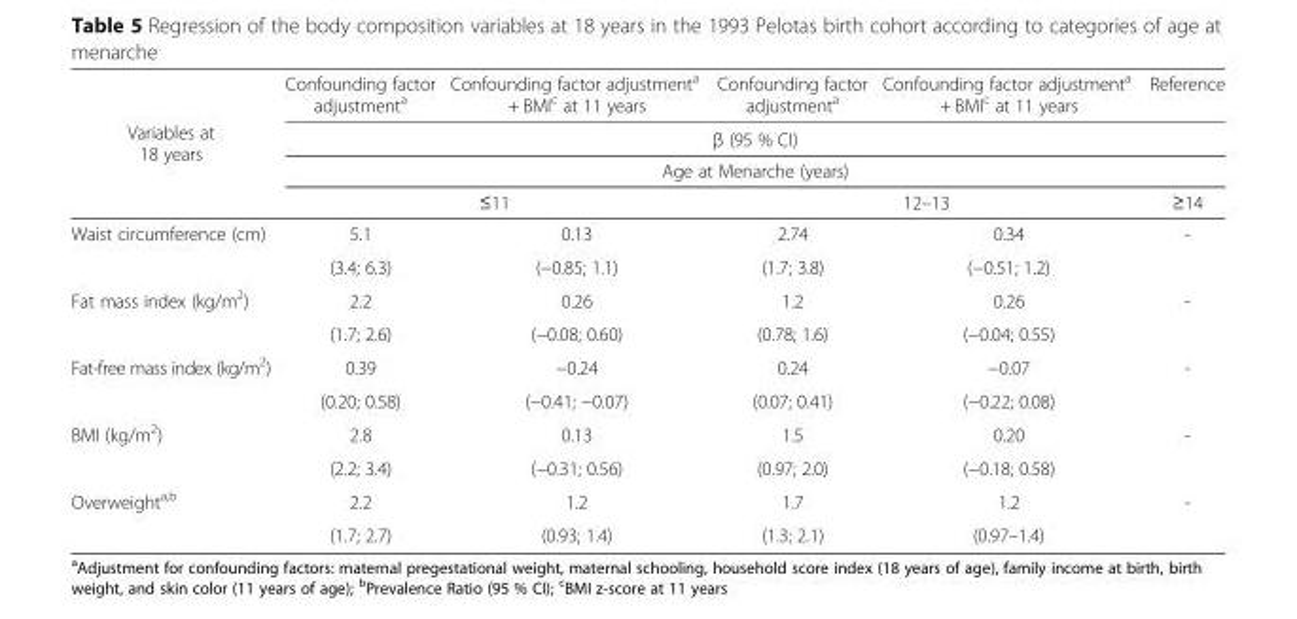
<table><thead><tr><td rowspan="4">Variables at 18 years</td><td>Confounding factor adjustment<sup>a</sup></td><td>Confounding factor adjustment<sup>a</sup> + BMI<sup>c</sup> at 11 years</td><td>Confounding factor adjustment<sup>a</sup></td><td>Confounding factor adjustment<sup>a</sup> + BMI<sup>c</sup> at 11 years</td><td>Reference</td></tr><tr><td rowspan="2" colspan="5">β (95 % CI) Age at Menarche (years)</td></tr><tr></tr><tr><td colspan="2">≤11</td><td colspan="2">12–13</td><td>≥14</td></tr></thead><tbody><tr><td rowspan="2">Waist circumference (cm)</td><td>5.1</td><td>0.13</td><td>2.74</td><td>0.34</td><td>-</td></tr><tr><td>(3.4; 6.3)</td><td>(−0.85; 1.1)</td><td>(1.7; 3.8)</td><td>(−0.51; 1.2)</td><td></td></tr><tr><td rowspan="2">Fat mass index (kg/m<sup>2</sup>)</td><td>2.2</td><td>0.26</td><td>1.2</td><td>0.26</td><td>-</td></tr><tr><td>(1.7; 2.6)</td><td>(−0.08; 0.60)</td><td>(0.78; 1.6)</td><td>(−0.04; 0.55)</td><td></td></tr><tr><td rowspan="2">Fat-free mass index (kg/m<sup>2</sup>)</td><td>0.39</td><td>−0.24</td><td>0.24</td><td>−0.07</td><td>-</td></tr><tr><td>(0.20; 0.58)</td><td>(−0.41; −0.07)</td><td>(0.07; 0.41)</td><td>(−0.22; 0.08)</td><td></td></tr><tr><td rowspan="2">BMI (kg/m<sup>2</sup>)</td><td>2.8</td><td>0.13</td><td>1.5</td><td>0.20</td><td>-</td></tr><tr><td>(2.2; 3.4)</td><td>(−0.31; 0.56)</td><td>(0.97; 2.0)</td><td>(−0.18; 0.58)</td><td></td></tr><tr><td rowspan="2">Overweight<sup>a,b</sup></td><td>2.2</td><td>1.2</td><td>1.7</td><td>1.2</td><td>-</td></tr><tr><td>(1.7; 2.7)</td><td>(0.93; 1.4)</td><td>(1.3; 2.1)</td><td>(0.97–1.4)</td><td></td></tr></tbody></table>